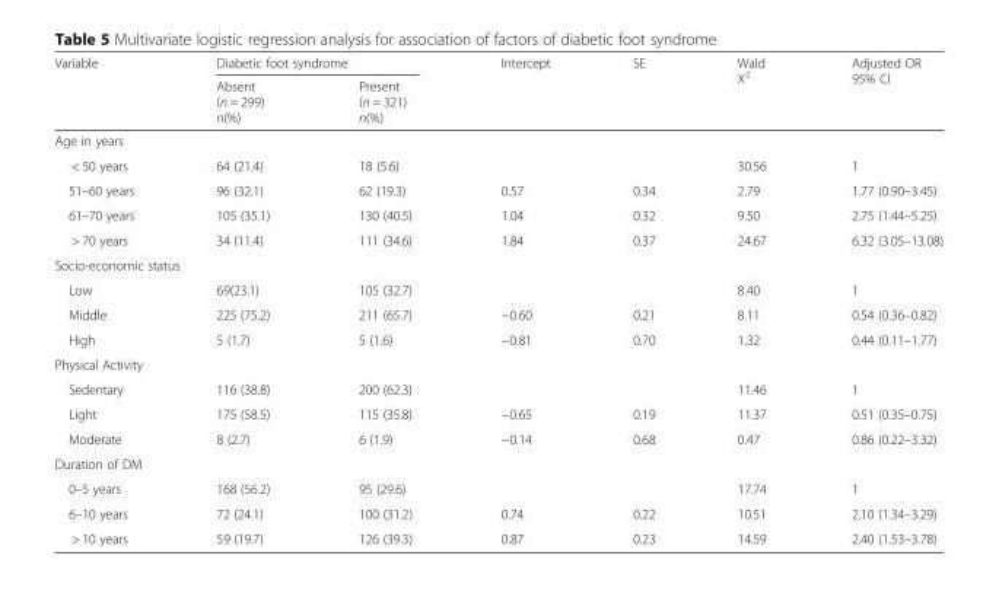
<table><thead><tr><td rowspan="2">Variable</td><td colspan="2">Diabetic foot syndrome</td><td rowspan="2">Intercept</td><td rowspan="2">SE</td><td rowspan="2">Wald X<sup>2</sup></td><td rowspan="2">Adjusted OR 95% CI</td></tr><tr><td>Absent (n = 299) n(%)</td><td>Present (n = 321) n(%)</td></tr></thead><tbody><tr><td colspan="7">Age in years</td></tr><tr><td>&lt; 50 years</td><td>64 (21.4)</td><td>18 (5.6)</td><td></td><td></td><td>30.56</td><td>1</td></tr><tr><td>51–60 years</td><td>96 (32.1)</td><td>62 (19.3)</td><td>0.57</td><td>0.34</td><td>2.79</td><td>1.77 (0.90–3.45)</td></tr><tr><td>61–70 years</td><td>105 (35.1)</td><td>130 (40.5)</td><td>1.04</td><td>0.32</td><td>9.50</td><td>2.75 (1.44–5.25)</td></tr><tr><td>&gt; 70 years</td><td>34 (11.4)</td><td>111 (34.6)</td><td>1.84</td><td>0.37</td><td>24.67</td><td>6.32 (3.05–13.08)</td></tr><tr><td colspan="7">Socio-economic status</td></tr><tr><td>Low</td><td>69(23.1)</td><td>105 (32.7)</td><td></td><td></td><td>8.40</td><td>1</td></tr><tr><td>Middle</td><td>225 (75.2)</td><td>211 (65.7)</td><td>−0.60</td><td>0.21</td><td>8.11</td><td>0.54 (0.36–0.82)</td></tr><tr><td>High</td><td>5 (1.7)</td><td>5 (1.6)</td><td>−0.81</td><td>0.70</td><td>1.32</td><td>0.44 (0.11–1.77)</td></tr><tr><td colspan="7">Physical Activity</td></tr><tr><td>Sedentary</td><td>116 (38.8)</td><td>200 (62.3)</td><td></td><td></td><td>11.46</td><td>1</td></tr><tr><td>Light</td><td>175 (58.5)</td><td>115 (35.8)</td><td>−0.65</td><td>0.19</td><td>11.37</td><td>0.51 (0.35–0.75)</td></tr><tr><td>Moderate</td><td>8 (2.7)</td><td>6 (1.9)</td><td>−0.14</td><td>0.68</td><td>0.47</td><td>0.86 (0.22–3.32)</td></tr><tr><td colspan="7">Duration of DM</td></tr><tr><td>0–5 years</td><td>168 (56.2)</td><td>95 (29.6)</td><td></td><td></td><td>17.74</td><td>1</td></tr><tr><td>6–10 years</td><td>72 (24.1)</td><td>100 (31.2)</td><td>0.74</td><td>0.22</td><td>10.51</td><td>2.10 (1.34–3.29)</td></tr><tr><td>&gt; 10 years</td><td>59 (19.7)</td><td>126 (39.3)</td><td>0.87</td><td>0.23</td><td>14.59</td><td>2.40 (1.53–3.78)</td></tr></tbody></table>